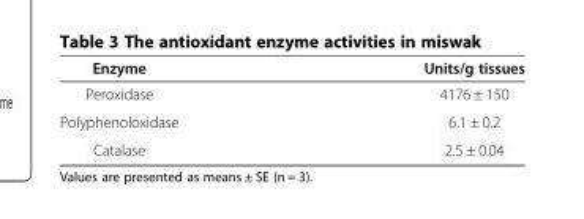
<table><thead><tr><td>Enzyme</td><td>Units/g tissues</td></tr></thead><tbody><tr><td>Peroxidase</td><td>4176 ± 150</td></tr><tr><td>Polyphenoloxidase</td><td>6.1 ± 0.2</td></tr><tr><td>Catalase</td><td>2.5 ± 0.04</td></tr></tbody></table>